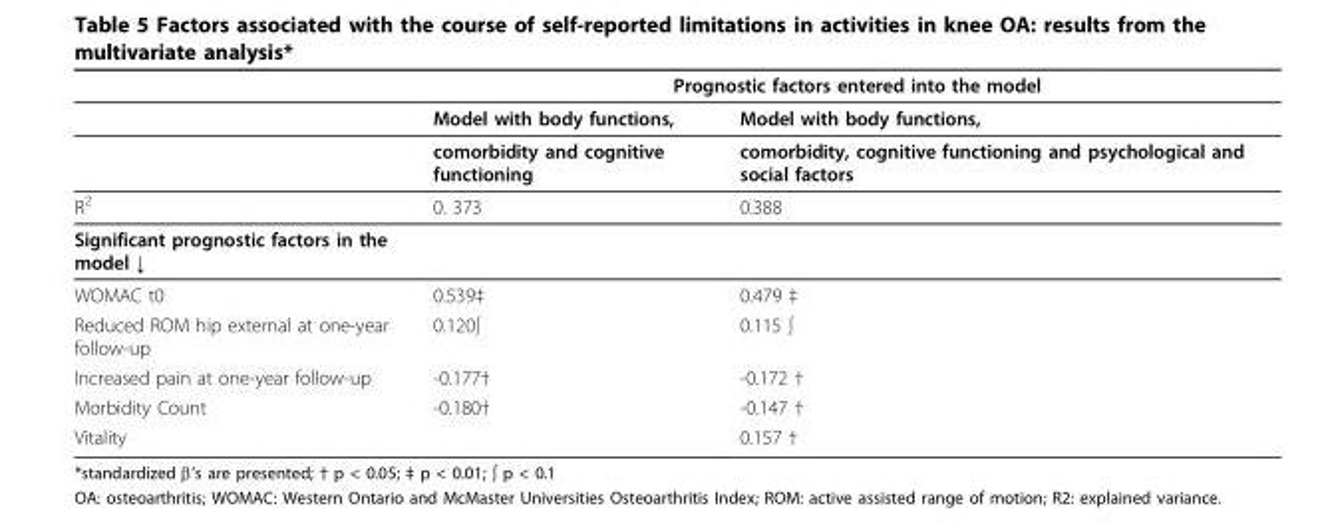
<table><thead><tr><td rowspan="2"></td><td colspan="2">Prognostic factors entered into the model</td></tr><tr><td>Model with body functions,</td><td>Model with body functions,</td></tr></thead><tbody><tr><td></td><td>comorbidity and cognitive functioning</td><td>comorbidity, cognitive functioning and psychological and social factors</td></tr><tr><td>R<sup>2</sup></td><td>0. 373</td><td>0.388</td></tr><tr><td colspan="3">Significant prognostic factors in the model ↓</td></tr><tr><td>WOMAC t0</td><td>0.539‡</td><td>0.479 ‡</td></tr><tr><td>Reduced ROM hip external at one-year follow-up</td><td>0.120∫</td><td>0.115 ∫</td></tr><tr><td>Increased pain at one-year follow-up</td><td>-0.177†</td><td>-0.172 †</td></tr><tr><td>Morbidity Count</td><td>-0.180†</td><td>-0.147 †</td></tr><tr><td>Vitality</td><td></td><td>0.157 †</td></tr></tbody></table>